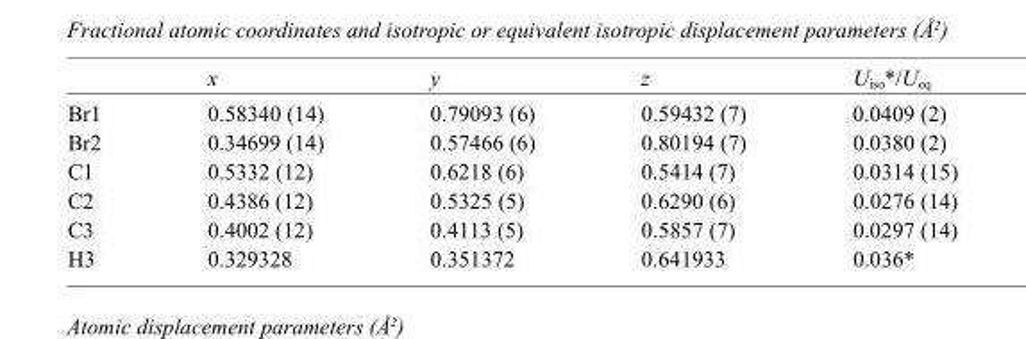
<table><thead><tr><td></td><td>x</td><td>y</td><td>z</td><td>U<sub>iso</sub>*/U<sub>eq</sub></td></tr></thead><tbody><tr><td>Br1</td><td>0.58340 (14)</td><td>0.79093 (6)</td><td>0.59432 (7)</td><td>0.0409 (2)</td></tr><tr><td>Br2</td><td>0.34699 (14)</td><td>0.57466 (6)</td><td>0.80194 (7)</td><td>0.0380 (2)</td></tr><tr><td>C1</td><td>0.5332 (12)</td><td>0.6218 (6)</td><td>0.5414 (7)</td><td>0.0314 (15)</td></tr><tr><td>C2</td><td>0.4386 (12)</td><td>0.5325 (5)</td><td>0.6290 (6)</td><td>0.0276 (14)</td></tr><tr><td>C3</td><td>0.4002 (12)</td><td>0.4113 (5)</td><td>0.5857 (7)</td><td>0.0297 (14)</td></tr><tr><td>H3</td><td>0.329328</td><td>0.351372</td><td>0.641933</td><td>0.036*</td></tr></tbody></table>